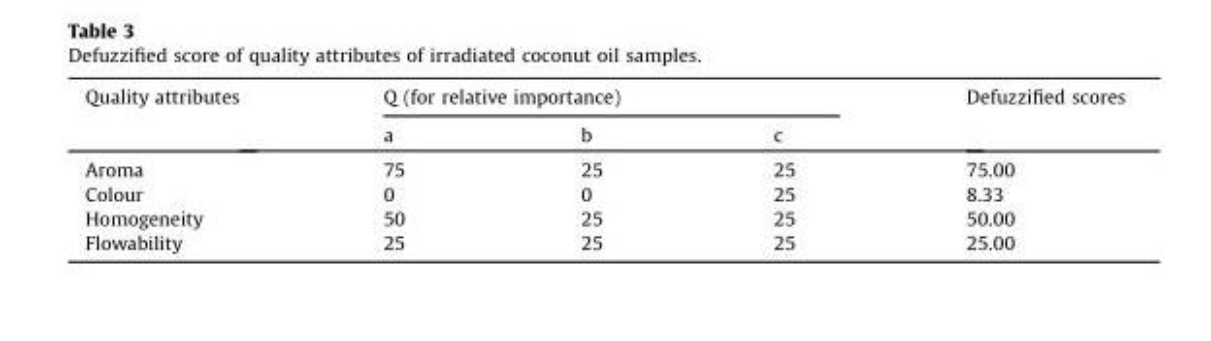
<table><thead><tr><td rowspan="2">Quality attributes</td><td colspan="3">Q (for relative importance)</td><td rowspan="2">Defuzzified scores</td></tr><tr><td>a</td><td>b</td><td>c</td></tr></thead><tbody><tr><td>Aroma</td><td>75</td><td>25</td><td>25</td><td>75.00</td></tr><tr><td>Colour</td><td>0</td><td>0</td><td>25</td><td>8.33</td></tr><tr><td>Homogeneity</td><td>50</td><td>25</td><td>25</td><td>50.00</td></tr><tr><td>Flowability</td><td>25</td><td>25</td><td>25</td><td>25.00</td></tr></tbody></table>